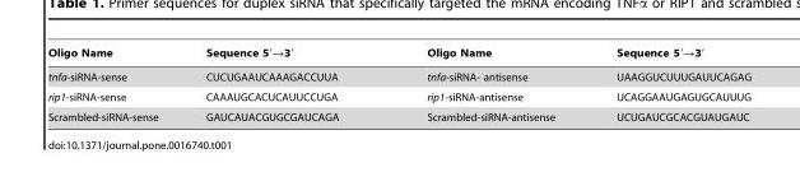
<table><thead><tr><td>Oligo Name</td><td>Sequence 5′→3′</td><td>Oligo Name</td><td>Sequence 5′→3′</td></tr></thead><tbody><tr><td>tnfa-siRNA-sense</td><td>CUCUGAAUCAAAGACCUUA</td><td>tnfa-siRNA- antisense</td><td>UAAGGUCUUUGAUUCAGAG</td></tr><tr><td>rip1-siRNA-sense</td><td>CAAAUGCACUCAUUCCUGA</td><td>rip1-siRNA-antisense</td><td>UCAGGAAUGAGUGCAUUUG</td></tr><tr><td>Scrambled-siRNA-sense</td><td>GAUCAUACGUGCGAUCAGA</td><td>Scrambled-siRNA-antisense</td><td>UCUGAUCGCACGUAUGAUC</td></tr></tbody></table>